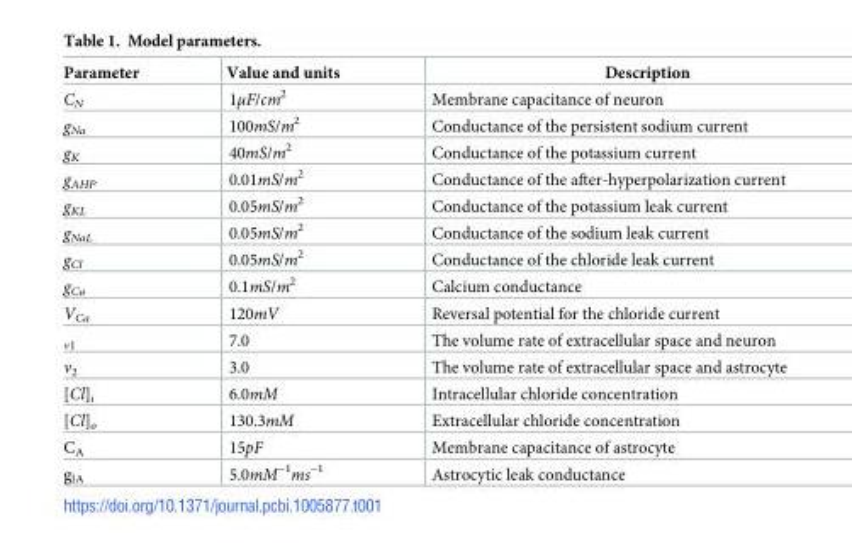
<table><thead><tr><td>Parameter</td><td>Value and units</td><td>Description</td></tr></thead><tbody><tr><td>C<sub>N</sub></td><td>1μF/cm<sup>2</sup></td><td>Membrane capacitance of neuron</td></tr><tr><td>g<sub>Na</sub></td><td>100mS/m<sup>2</sup></td><td>Conductance of the persistent sodium current</td></tr><tr><td>g<sub>K</sub></td><td>40mS/m<sup>2</sup></td><td>Conductance of the potassium current</td></tr><tr><td>g<sub>AHP</sub></td><td>0.01mS/m<sup>2</sup></td><td>Conductance of the after-hyperpolarization current</td></tr><tr><td>g<sub>KL</sub></td><td>0.05mS/m<sup>2</sup></td><td>Conductance of the potassium leak current</td></tr><tr><td>g<sub>NaL</sub></td><td>0.05mS/m<sup>2</sup></td><td>Conductance of the sodium leak current</td></tr><tr><td>g<sub>Cl</sub></td><td>0.05mS/m<sup>2</sup></td><td>Conductance of the chloride leak current</td></tr><tr><td>g<sub>Ca</sub></td><td>0.1mS/m<sup>2</sup></td><td>Calcium conductance</td></tr><tr><td>V<sub>Ca</sub></td><td>120mV</td><td>Reversal potential for the chloride current</td></tr><tr><td><sub>v1</sub></td><td>7.0</td><td>The volume rate of extracellular space and neuron</td></tr><tr><td>v<sub>2</sub></td><td>3.0</td><td>The volume rate of extracellular space and astrocyte</td></tr><tr><td>[Cl]<sub>i</sub></td><td>6.0mM</td><td>Intracellular chloride concentration</td></tr><tr><td>[Cl]<sub>o</sub></td><td>130.3mM</td><td>Extracellular chloride concentration</td></tr><tr><td>C<sub>A</sub></td><td>15pF</td><td>Membrane capacitance of astrocyte</td></tr><tr><td>g<sub>lA</sub></td><td>5.0mM<sup>−1</sup>ms<sup>−1</sup></td><td>Astrocytic leak conductance</td></tr></tbody></table>